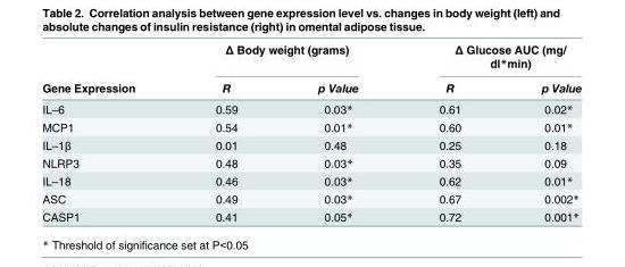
<table><thead><tr><td rowspan="2">Gene Expression</td><td colspan="2">Δ Body weight (grams)</td><td colspan="2">Δ Glucose AUC (mg/ dl*min)</td></tr><tr><td>R</td><td>p Value</td><td>R</td><td>p Value</td></tr></thead><tbody><tr><td>IL–6</td><td>0.59</td><td>0.03*</td><td>0.61</td><td>0.02*</td></tr><tr><td>MCP1</td><td>0.54</td><td>0.01*</td><td>0.60</td><td>0.01*</td></tr><tr><td>IL–1β</td><td>0.01</td><td>0.48</td><td>0.25</td><td>0.18</td></tr><tr><td>NLRP3</td><td>0.48</td><td>0.03*</td><td>0.35</td><td>0.09</td></tr><tr><td>IL–18</td><td>0.46</td><td>0.03*</td><td>0.62</td><td>0.01*</td></tr><tr><td>ASC</td><td>0.49</td><td>0.03*</td><td>0.67</td><td>0.002*</td></tr><tr><td>CASP1</td><td>0.41</td><td>0.05*</td><td>0.72</td><td>0.001*</td></tr></tbody></table>